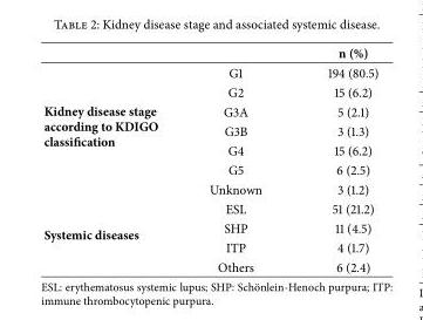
<table><thead><tr><td></td><td></td><td>n (%)</td></tr></thead><tbody><tr><td rowspan="7">Kidney disease stage according to KDIGO classification</td><td>G1</td><td>194 (80.5)</td></tr><tr><td>G2</td><td>15 (6.2)</td></tr><tr><td>G3A</td><td>5 (2.1)</td></tr><tr><td>G3B</td><td>3 (1.3)</td></tr><tr><td>G4</td><td>15 (6.2)</td></tr><tr><td>G5</td><td>6 (2.5)</td></tr><tr><td>Unknown</td><td>3 (1.2)</td></tr><tr><td rowspan="4">Systemic diseases</td><td>ESL</td><td>51 (21.2)</td></tr><tr><td>SHP</td><td>11 (4.5)</td></tr><tr><td>ITP</td><td>4 (1.7)</td></tr><tr><td>Others</td><td>6 (2.4)</td></tr></tbody></table>